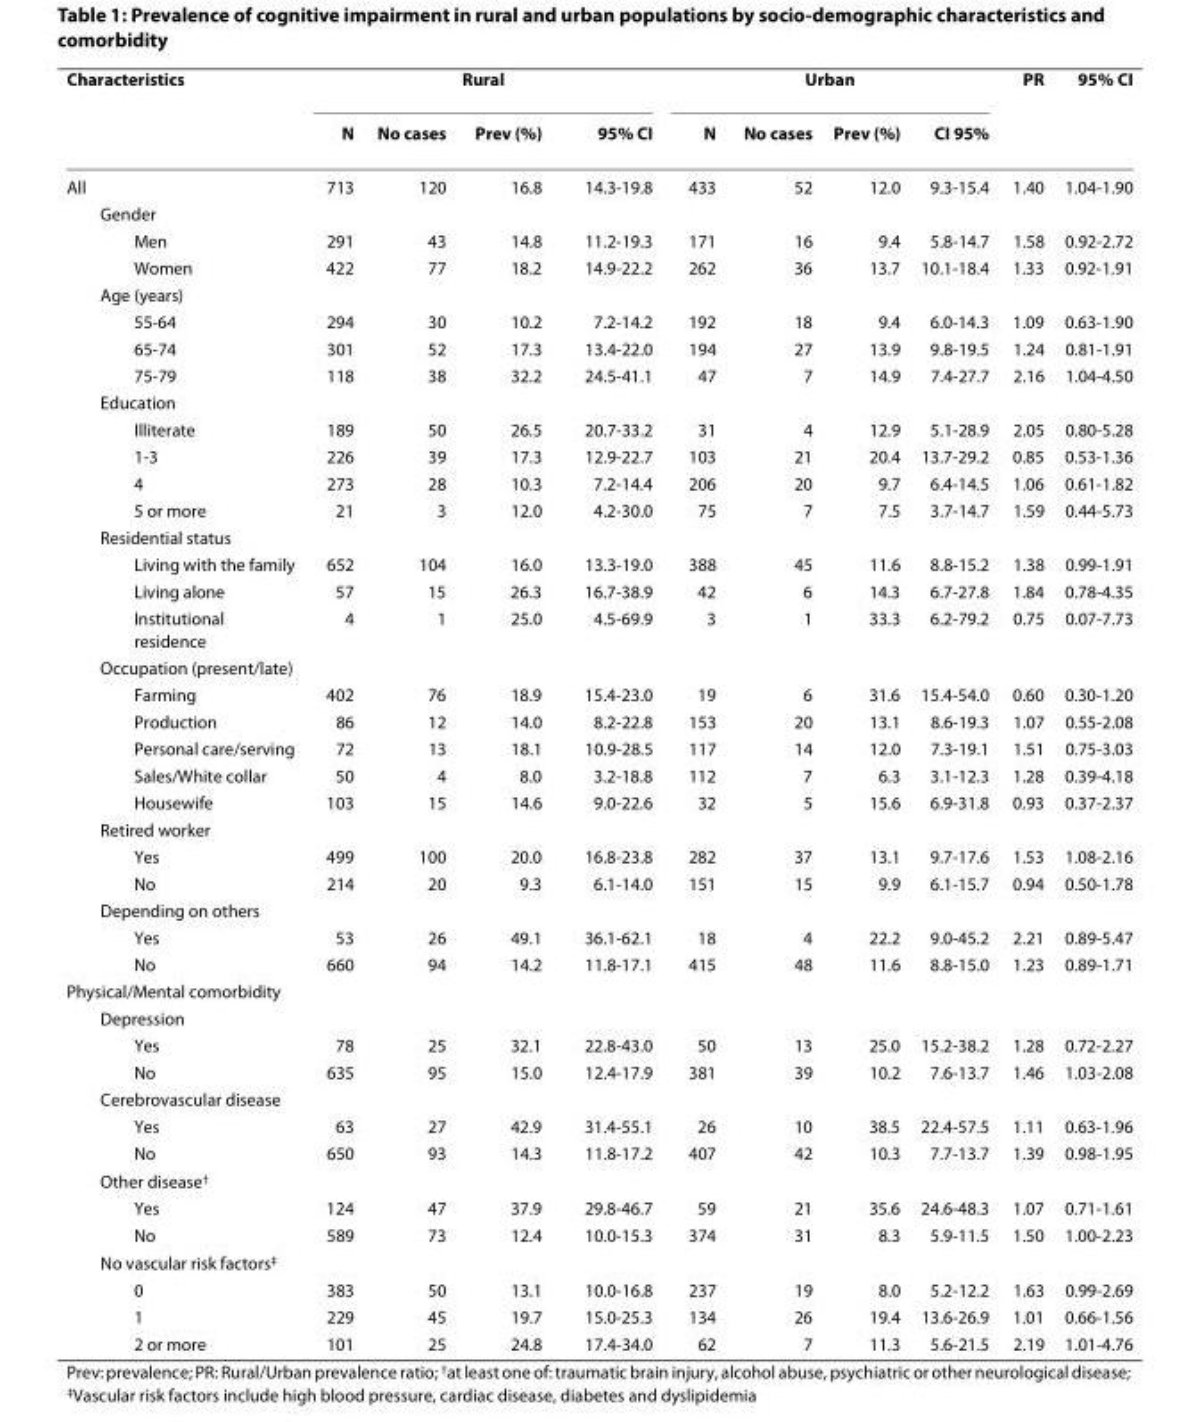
<table><thead><tr><td rowspan="2">Characteristics</td><td colspan="4">Rural</td><td colspan="4">Urban</td><td rowspan="2">PR</td><td rowspan="2">95% CI</td></tr><tr><td>N</td><td>No cases</td><td>Prev (%)</td><td>95% CI</td><td>N</td><td>No cases</td><td>Prev (%)</td><td>CI 95%</td></tr></thead><tbody><tr><td>All</td><td>713</td><td>120</td><td>16.8</td><td>14.3-19.8</td><td>433</td><td>52</td><td>12.0</td><td>9.3-15.4</td><td>1.40</td><td>1.04-1.90</td></tr><tr><td colspan="11">Gender</td></tr><tr><td>Men</td><td>291</td><td>43</td><td>14.8</td><td>11.2-19.3</td><td>171</td><td>16</td><td>9.4</td><td>5.8-14.7</td><td>1.58</td><td>0.92-2.72</td></tr><tr><td>Women</td><td>422</td><td>77</td><td>18.2</td><td>14.9-22.2</td><td>262</td><td>36</td><td>13.7</td><td>10.1-18.4</td><td>1.33</td><td>0.92-1.91</td></tr><tr><td colspan="11">Age (years)</td></tr><tr><td>55-64</td><td>294</td><td>30</td><td>10.2</td><td>7.2-14.2</td><td>192</td><td>18</td><td>9.4</td><td>6.0-14.3</td><td>1.09</td><td>0.63-1.90</td></tr><tr><td>65-74</td><td>301</td><td>52</td><td>17.3</td><td>13.4-22.0</td><td>194</td><td>27</td><td>13.9</td><td>9.8-19.5</td><td>1.24</td><td>0.81-1.91</td></tr><tr><td>75-79</td><td>118</td><td>38</td><td>32.2</td><td>24.5-41.1</td><td>47</td><td>7</td><td>14.9</td><td>7.4-27.7</td><td>2.16</td><td>1.04-4.50</td></tr><tr><td colspan="11">Education</td></tr><tr><td>Illiterate</td><td>189</td><td>50</td><td>26.5</td><td>20.7-33.2</td><td>31</td><td>4</td><td>12.9</td><td>5.1-28.9</td><td>2.05</td><td>0.80-5.28</td></tr><tr><td>1-3</td><td>226</td><td>39</td><td>17.3</td><td>12.9-22.7</td><td>103</td><td>21</td><td>20.4</td><td>13.7-29.2</td><td>0.85</td><td>0.53-1.36</td></tr><tr><td>4</td><td>273</td><td>28</td><td>10.3</td><td>7.2-14.4</td><td>206</td><td>20</td><td>9.7</td><td>6.4-14.5</td><td>1.06</td><td>0.61-1.82</td></tr><tr><td>5 or more</td><td>21</td><td>3</td><td>12.0</td><td>4.2-30.0</td><td>75</td><td>7</td><td>7.5</td><td>3.7-14.7</td><td>1.59</td><td>0.44-5.73</td></tr><tr><td colspan="11">Residential status</td></tr><tr><td>Living with the family</td><td>652</td><td>104</td><td>16.0</td><td>13.3-19.0</td><td>388</td><td>45</td><td>11.6</td><td>8.8-15.2</td><td>1.38</td><td>0.99-1.91</td></tr><tr><td>Living alone</td><td>57</td><td>15</td><td>26.3</td><td>16.7-38.9</td><td>42</td><td>6</td><td>14.3</td><td>6.7-27.8</td><td>1.84</td><td>0.78-4.35</td></tr><tr><td>Institutional residence</td><td>4</td><td>1</td><td>25.0</td><td>4.5-69.9</td><td>3</td><td>1</td><td>33.3</td><td>6.2-79.2</td><td>0.75</td><td>0.07-7.73</td></tr><tr><td colspan="11">Occupation (present/late)</td></tr><tr><td>Farming</td><td>402</td><td>76</td><td>18.9</td><td>15.4-23.0</td><td>19</td><td>6</td><td>31.6</td><td>15.4-54.0</td><td>0.60</td><td>0.30-1.20</td></tr><tr><td>Production</td><td>86</td><td>12</td><td>14.0</td><td>8.2-22.8</td><td>153</td><td>20</td><td>13.1</td><td>8.6-19.3</td><td>1.07</td><td>0.55-2.08</td></tr><tr><td>Personal care/serving</td><td>72</td><td>13</td><td>18.1</td><td>10.9-28.5</td><td>117</td><td>14</td><td>12.0</td><td>7.3-19.1</td><td>1.51</td><td>0.75-3.03</td></tr><tr><td>Sales/White collar</td><td>50</td><td>4</td><td>8.0</td><td>3.2-18.8</td><td>112</td><td>7</td><td>6.3</td><td>3.1-12.3</td><td>1.28</td><td>0.39-4.18</td></tr><tr><td>Housewife</td><td>103</td><td>15</td><td>14.6</td><td>9.0-22.6</td><td>32</td><td>5</td><td>15.6</td><td>6.9-31.8</td><td>0.93</td><td>0.37-2.37</td></tr><tr><td colspan="11">Retired worker</td></tr><tr><td>Yes</td><td>499</td><td>100</td><td>20.0</td><td>16.8-23.8</td><td>282</td><td>37</td><td>13.1</td><td>9.7-17.6</td><td>1.53</td><td>1.08-2.16</td></tr><tr><td>No</td><td>214</td><td>20</td><td>9.3</td><td>6.1-14.0</td><td>151</td><td>15</td><td>9.9</td><td>6.1-15.7</td><td>0.94</td><td>0.50-1.78</td></tr><tr><td colspan="11">Depending on others</td></tr><tr><td>Yes</td><td>53</td><td>26</td><td>49.1</td><td>36.1-62.1</td><td>18</td><td>4</td><td>22.2</td><td>9.0-45.2</td><td>2.21</td><td>0.89-5.47</td></tr><tr><td>No</td><td>660</td><td>94</td><td>14.2</td><td>11.8-17.1</td><td>415</td><td>48</td><td>11.6</td><td>8.8-15.0</td><td>1.23</td><td>0.89-1.71</td></tr><tr><td colspan="11">Physical/Mental comorbidity</td></tr><tr><td colspan="11">Depression</td></tr><tr><td>Yes</td><td>78</td><td>25</td><td>32.1</td><td>22.8-43.0</td><td>50</td><td>13</td><td>25.0</td><td>15.2-38.2</td><td>1.28</td><td>0.72-2.27</td></tr><tr><td>No</td><td>635</td><td>95</td><td>15.0</td><td>12.4-17.9</td><td>381</td><td>39</td><td>10.2</td><td>7.6-13.7</td><td>1.46</td><td>1.03-2.08</td></tr><tr><td colspan="11">Cerebrovascular disease</td></tr><tr><td>Yes</td><td>63</td><td>27</td><td>42.9</td><td>31.4-55.1</td><td>26</td><td>10</td><td>38.5</td><td>22.4-57.5</td><td>1.11</td><td>0.63-1.96</td></tr><tr><td>No</td><td>650</td><td>93</td><td>14.3</td><td>11.8-17.2</td><td>407</td><td>42</td><td>10.3</td><td>7.7-13.7</td><td>1.39</td><td>0.98-1.95</td></tr><tr><td colspan="11">Other disease<sup>†</sup></td></tr><tr><td>Yes</td><td>124</td><td>47</td><td>37.9</td><td>29.8-46.7</td><td>59</td><td>21</td><td>35.6</td><td>24.6-48.3</td><td>1.07</td><td>0.71-1.61</td></tr><tr><td>No</td><td>589</td><td>73</td><td>12.4</td><td>10.0-15.3</td><td>374</td><td>31</td><td>8.3</td><td>5.9-11.5</td><td>1.50</td><td>1.00-2.23</td></tr><tr><td colspan="11">No vascular risk factors<sup>‡</sup></td></tr><tr><td>0</td><td>383</td><td>50</td><td>13.1</td><td>10.0-16.8</td><td>237</td><td>19</td><td>8.0</td><td>5.2-12.2</td><td>1.63</td><td>0.99-2.69</td></tr><tr><td>1</td><td>229</td><td>45</td><td>19.7</td><td>15.0-25.3</td><td>134</td><td>26</td><td>19.4</td><td>13.6-26.9</td><td>1.01</td><td>0.66-1.56</td></tr><tr><td>2 or more</td><td>101</td><td>25</td><td>24.8</td><td>17.4-34.0</td><td>62</td><td>7</td><td>11.3</td><td>5.6-21.5</td><td>2.19</td><td>1.01-4.76</td></tr></tbody></table>